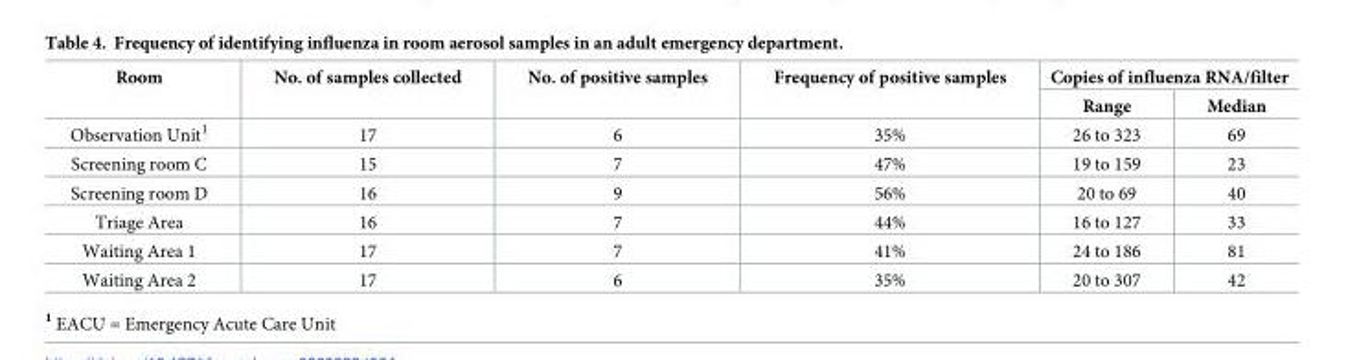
<table><thead><tr><td rowspan="2">Room</td><td rowspan="2">No. of samples collected</td><td rowspan="2">No. of positive samples</td><td rowspan="2">Frequency of positive samples</td><td colspan="2">Copies of influenza RNA/filter</td></tr><tr><td>Range</td><td>Median</td></tr></thead><tbody><tr><td>Observation Unit<sup>1</sup></td><td>17</td><td>6</td><td>35%</td><td>26 to 323</td><td>69</td></tr><tr><td>Screening room C</td><td>15</td><td>7</td><td>47%</td><td>19 to 159</td><td>23</td></tr><tr><td>Screening room D</td><td>16</td><td>9</td><td>56%</td><td>20 to 69</td><td>40</td></tr><tr><td>Triage Area</td><td>16</td><td>7</td><td>44%</td><td>16 to 127</td><td>33</td></tr><tr><td>Waiting Area 1</td><td>17</td><td>7</td><td>41%</td><td>24 to 186</td><td>81</td></tr><tr><td>Waiting Area 2</td><td>17</td><td>6</td><td>35%</td><td>20 to 307</td><td>42</td></tr></tbody></table>